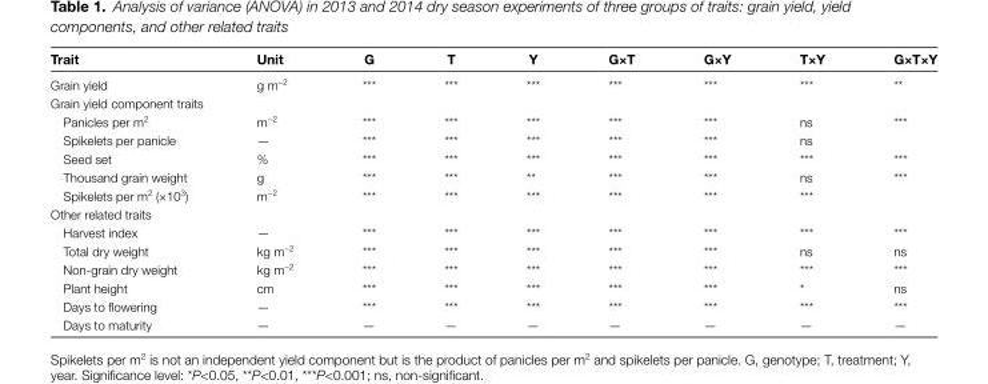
<table><thead><tr><td>Trait</td><td>Unit</td><td>G</td><td>T</td><td>Y</td><td>G×T</td><td>G×Y</td><td>T×Y</td><td>G×T×Y</td></tr></thead><tbody><tr><td>Grain yield</td><td>g m<sup>−2</sup></td><td>***</td><td>***</td><td>***</td><td>***</td><td>***</td><td>***</td><td>**</td></tr><tr><td colspan="9">Grain yield component traits</td></tr><tr><td>Panicles per m<sup>2</sup></td><td>m<sup>−2</sup></td><td>***</td><td>***</td><td>***</td><td>***</td><td>***</td><td>ns</td><td>***</td></tr><tr><td>Spikelets per panicle</td><td>—</td><td>***</td><td>***</td><td>***</td><td>***</td><td>***</td><td>ns</td><td></td></tr><tr><td>Seed set</td><td>%</td><td>***</td><td>***</td><td>***</td><td>***</td><td>***</td><td>***</td><td>***</td></tr><tr><td>Thousand grain weight</td><td>g</td><td>***</td><td>***</td><td>**</td><td>***</td><td>***</td><td>ns</td><td>***</td></tr><tr><td>Spikelets per m<sup>2</sup> (×10<sup>3</sup>)</td><td>m<sup>−2</sup></td><td>***</td><td>***</td><td>***</td><td>***</td><td>***</td><td>***</td><td></td></tr><tr><td colspan="9">Other related traits</td></tr><tr><td>Harvest index</td><td>—</td><td>***</td><td>***</td><td>***</td><td>***</td><td>***</td><td>***</td><td>***</td></tr><tr><td>Total dry weight</td><td>kg m<sup>−2</sup></td><td>***</td><td>***</td><td>***</td><td>***</td><td>***</td><td>ns</td><td>ns</td></tr><tr><td>Non-grain dry weight</td><td>kg m<sup>−2</sup></td><td>***</td><td>***</td><td>***</td><td>***</td><td>***</td><td>***</td><td>***</td></tr><tr><td>Plant height</td><td>cm</td><td>***</td><td>***</td><td>***</td><td>***</td><td>***</td><td>*</td><td>ns</td></tr><tr><td>Days to flowering</td><td>—</td><td>***</td><td>***</td><td>***</td><td>***</td><td>***</td><td>***</td><td>***</td></tr><tr><td>Days to maturity</td><td>—</td><td>—</td><td>—</td><td>—</td><td>—</td><td>—</td><td>—</td><td>—</td></tr></tbody></table>